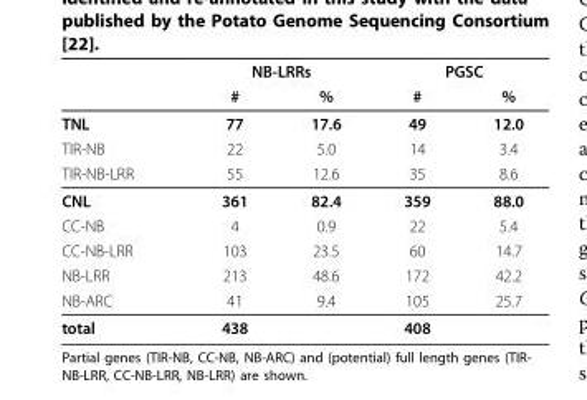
<table><thead><tr><td rowspan="2"></td><td colspan="2">NB-LRRs</td><td colspan="2">PGSC</td></tr><tr><td>#</td><td>%</td><td>#</td><td>%</td></tr></thead><tbody><tr><td>TNL</td><td>77</td><td>17.6</td><td>49</td><td>12.0</td></tr><tr><td>TIR-NB</td><td>22</td><td>5.0</td><td>14</td><td>3.4</td></tr><tr><td>TIR-NB-LRR</td><td>55</td><td>12.6</td><td>35</td><td>8.6</td></tr><tr><td>CNL</td><td>361</td><td>82.4</td><td>359</td><td>88.0</td></tr><tr><td>CC-NB</td><td>4</td><td>0.9</td><td>22</td><td>5.4</td></tr><tr><td>CC-NB-LRR</td><td>103</td><td>23.5</td><td>60</td><td>14.7</td></tr><tr><td>NB-LRR</td><td>213</td><td>48.6</td><td>172</td><td>42.2</td></tr><tr><td>NB-ARC</td><td>41</td><td>9.4</td><td>105</td><td>25.7</td></tr><tr><td>total</td><td>438</td><td></td><td>408</td><td></td></tr></tbody></table>